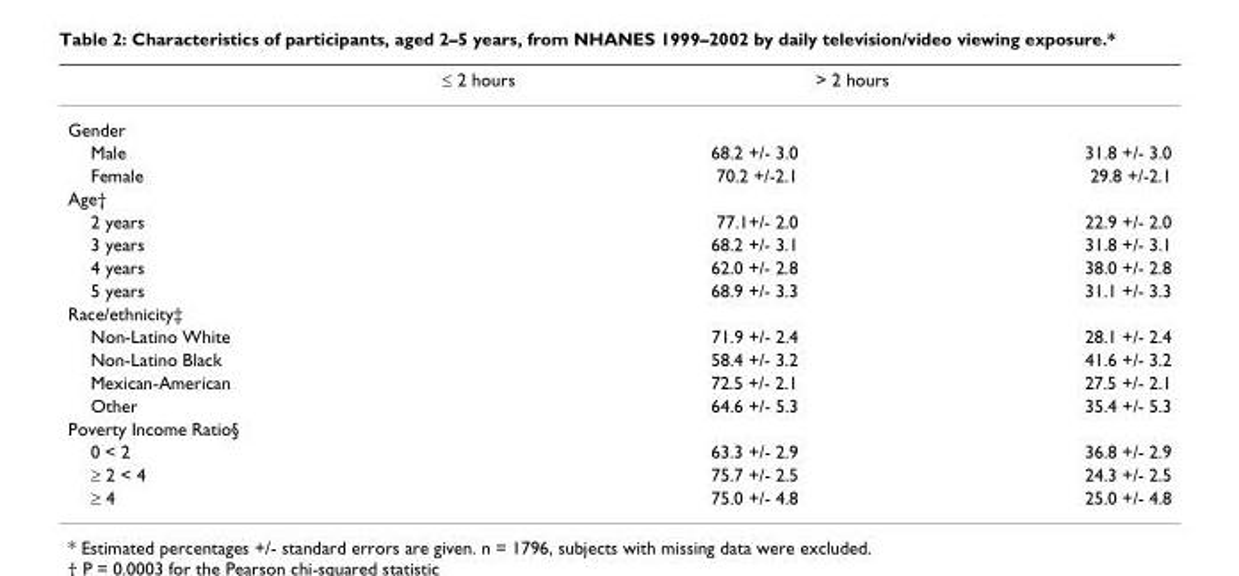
<table><thead><tr><td></td><td>≤ 2 hours</td><td>&gt; 2 hours</td></tr></thead><tbody><tr><td colspan="3">Gender</td></tr><tr><td>Male</td><td>68.2 +/- 3.0</td><td>31.8 +/- 3.0</td></tr><tr><td>Female</td><td>70.2 +/-2.1</td><td>29.8 +/-2.1</td></tr><tr><td colspan="3">Age†</td></tr><tr><td>2 years</td><td>77.1+/- 2.0</td><td>22.9 +/- 2.0</td></tr><tr><td>3 years</td><td>68.2 +/- 3.1</td><td>31.8 +/- 3.1</td></tr><tr><td>4 years</td><td>62.0 +/- 2.8</td><td>38.0 +/- 2.8</td></tr><tr><td>5 years</td><td>68.9 +/- 3.3</td><td>31.1 +/- 3.3</td></tr><tr><td colspan="3">Race/ethnicity‡</td></tr><tr><td>Non-Latino White</td><td>71.9 +/- 2.4</td><td>28.1 +/- 2.4</td></tr><tr><td>Non-Latino Black</td><td>58.4 +/- 3.2</td><td>41.6 +/- 3.2</td></tr><tr><td>Mexican-American</td><td>72.5 +/- 2.1</td><td>27.5 +/- 2.1</td></tr><tr><td>Other</td><td>64.6 +/- 5.3</td><td>35.4 +/- 5.3</td></tr><tr><td colspan="3">Poverty Income Ratio§</td></tr><tr><td>0 &lt; 2</td><td>63.3 +/- 2.9</td><td>36.8 +/- 2.9</td></tr><tr><td>≥ 2 &lt; 4</td><td>75.7 +/- 2.5</td><td>24.3 +/- 2.5</td></tr><tr><td>≥ 4</td><td>75.0 +/- 4.8</td><td>25.0 +/- 4.8</td></tr></tbody></table>